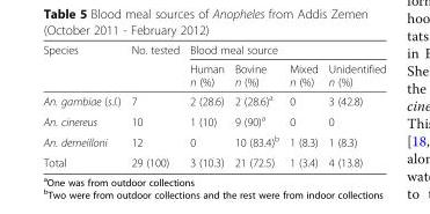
<table><thead><tr><td rowspan="2">Species</td><td rowspan="2">No. tested</td><td colspan="4">Blood meal source</td></tr><tr><td>Human n (%)</td><td>Bovine n (%)</td><td>Mixed n (%)</td><td>Unidentified n (%)</td></tr></thead><tbody><tr><td>An. gambiae (s.l.)</td><td>7</td><td>2 (28.6)</td><td>2 (28.6)<sup>a</sup></td><td>0</td><td>3 (42.8)</td></tr><tr><td>An. cinereus</td><td>10</td><td>1 (10)</td><td>9 (90)<sup>a</sup></td><td>0</td><td>0</td></tr><tr><td>An. demeilloni</td><td>12</td><td>0</td><td>10 (83.4)<sup>b</sup></td><td>1 (8.3)</td><td>1 (8.3)</td></tr><tr><td>Total</td><td>29 (100)</td><td>3 (10.3)</td><td>21 (72.5)</td><td>1 (3.4)</td><td>4 (13.8)</td></tr></tbody></table>